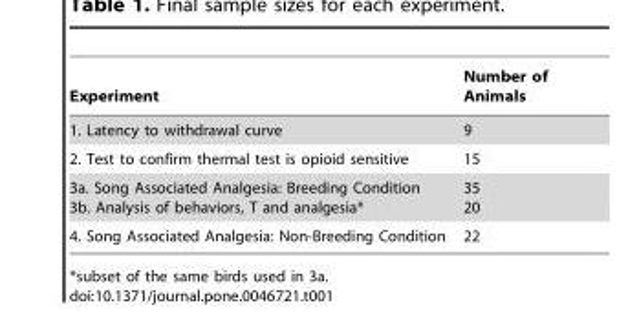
<table><thead><tr><td>Experiment</td><td>Number of Animals</td></tr></thead><tbody><tr><td>1. Latency to withdrawal curve</td><td>9</td></tr><tr><td>2. Test to confirm thermal test is opioid sensitive</td><td>15</td></tr><tr><td>3a. Song Associated Analgesia: Breeding Condition 3b. Analysis of behaviors, T and analgesia*</td><td>35 20</td></tr><tr><td>4. Song Associated Analgesia: Non-Breeding Condition</td><td>22</td></tr></tbody></table>